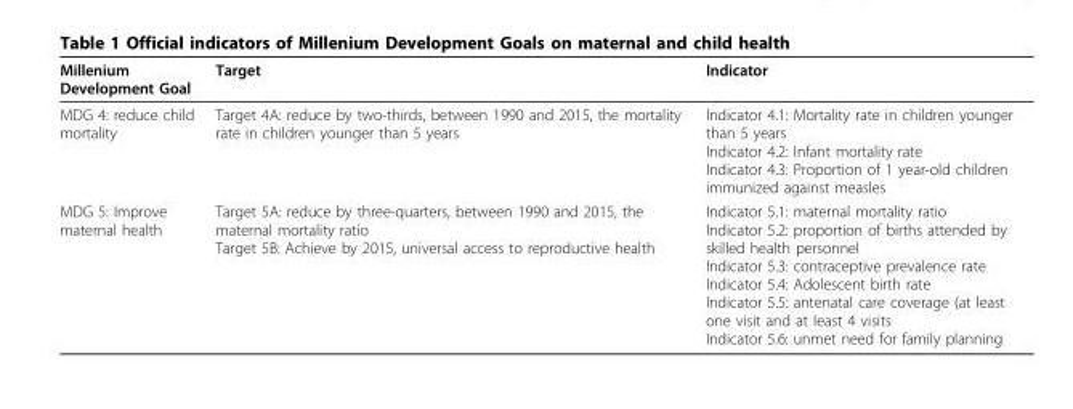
<table><thead><tr><td>Millenium Development Goal</td><td>Target</td><td>Indicator</td></tr></thead><tbody><tr><td>MDG 4: reduce child mortality</td><td>Target 4A: reduce by two-thirds, between 1990 and 2015, the mortality rate in children younger than 5 years</td><td>Indicator 4.1: Mortality rate in children younger than 5 years Indicator 4.2: Infant mortality rate Indicator 4.3: Proportion of 1 year-old children immunized against measles</td></tr><tr><td>MDG 5: Improve maternal health</td><td>Target 5A: reduce by three-quarters, between 1990 and 2015, the maternal mortality ratio Target 5B: Achieve by 2015, universal access to reproductive health</td><td>Indicator 5.1: maternal mortality ratio Indicator 5.2: proportion of births attended by skilled health personnel Indicator 5.3: contraceptive prevalence rate Indicator 5.4: Adolescent birth rate Indicator 5.5: antenatal care coverage (at least one visit and at least 4 visits Indicator 5.6: unmet need for family planning</td></tr></tbody></table>